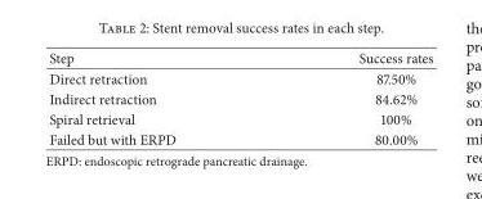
<table><thead><tr><td>Step</td><td>Success rates</td></tr></thead><tbody><tr><td>Direct retraction</td><td>87.50%</td></tr><tr><td>Indirect retraction</td><td>84.62%</td></tr><tr><td>Spiral retrieval</td><td>100%</td></tr><tr><td>Failed but with ERPD</td><td>80.00%</td></tr></tbody></table>